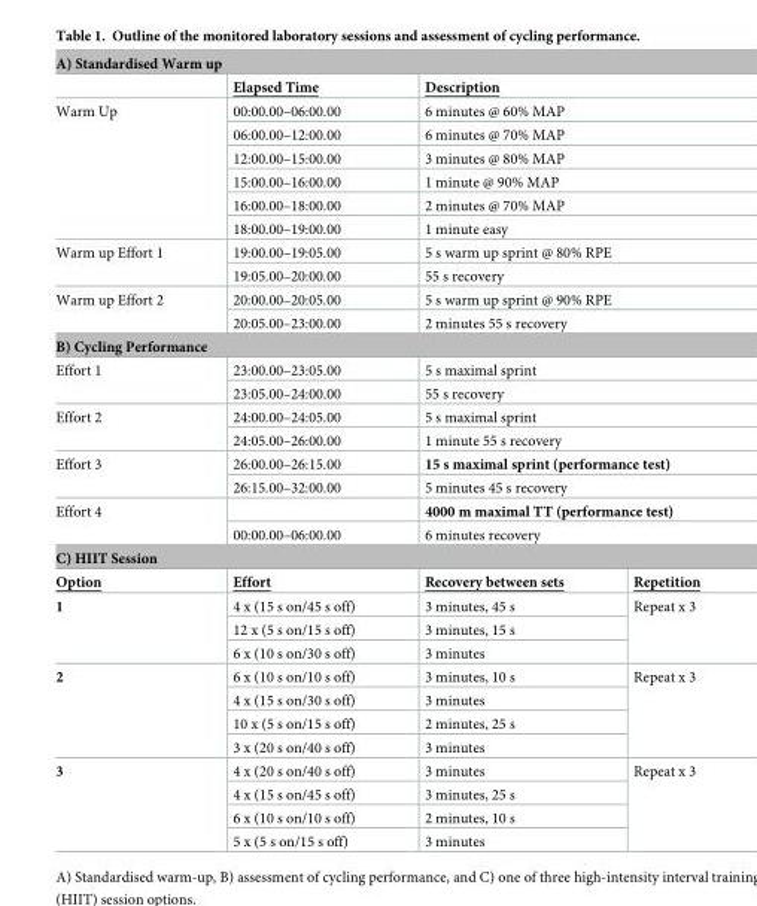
<table><tbody><tr><td colspan="4">A) Standardised Warm up</td></tr><tr><td></td><td>Elapsed Time</td><td colspan="2">Description</td></tr><tr><td rowspan="6">Warm Up</td><td>00:00.00–06:00.00</td><td colspan="2">6 minutes @ 60% MAP</td></tr><tr><td>06:00.00–12:00.00</td><td colspan="2">6 minutes @ 70% MAP</td></tr><tr><td>12:00.00–15:00.00</td><td colspan="2">3 minutes @ 80% MAP</td></tr><tr><td>15:00.00–16:00.00</td><td colspan="2">1 minute @ 90% MAP</td></tr><tr><td>16:00.00–18:00.00</td><td colspan="2">2 minutes @ 70% MAP</td></tr><tr><td>18:00.00–19:00.00</td><td colspan="2">1 minute easy</td></tr><tr><td rowspan="2">Warm up Effort 1</td><td>19:00.00–19:05.00</td><td colspan="2">5 s warm up sprint @ 80% RPE</td></tr><tr><td>19:05.00–20:00.00</td><td colspan="2">55 s recovery</td></tr><tr><td rowspan="2">Warm up Effort 2</td><td>20:00.00–20:05.00</td><td colspan="2">5 s warm up sprint @ 90% RPE</td></tr><tr><td>20:05.00–23:00.00</td><td colspan="2">2 minutes 55 s recovery</td></tr><tr><td colspan="4">B) Cycling Performance</td></tr><tr><td rowspan="2">Effort 1</td><td>23:00.00–23:05.00</td><td colspan="2">5 s maximal sprint</td></tr><tr><td>23:05.00–24:00.00</td><td colspan="2">55 s recovery</td></tr><tr><td rowspan="2">Effort 2</td><td>24:00.00–24:05.00</td><td colspan="2">5 s maximal sprint</td></tr><tr><td>24:05.00–26:00.00</td><td colspan="2">1 minute 55 s recovery</td></tr><tr><td rowspan="2">Effort 3</td><td>26:00.00–26:15.00</td><td colspan="2">15 s maximal sprint (performance test)</td></tr><tr><td>26:15.00–32:00.00</td><td colspan="2">5 minutes 45 s recovery</td></tr><tr><td rowspan="2">Effort 4</td><td></td><td colspan="2">4000 m maximal TT (performance test)</td></tr><tr><td>00:00.00–06:00.00</td><td colspan="2">6 minutes recovery</td></tr><tr><td colspan="4">C) HIIT Session</td></tr><tr><td>Option</td><td>Effort</td><td>Recovery between sets</td><td>Repetition</td></tr><tr><td rowspan="3">1</td><td>4 x (15 s on/45 s off)</td><td>3 minutes, 45 s</td><td rowspan="3">Repeat x 3</td></tr><tr><td>12 x (5 s on/15 s off)</td><td>3 minutes, 15 s</td></tr><tr><td>6 x (10 s on/30 s off)</td><td>3 minutes</td></tr><tr><td rowspan="4">2</td><td>6 x (10 s on/10 s off)</td><td>3 minutes, 10 s</td><td rowspan="4">Repeat x 3</td></tr><tr><td>4 x (15 s on/30 s off)</td><td>3 minutes</td></tr><tr><td>10 x (5 s on/15 s off)</td><td>2 minutes, 25 s</td></tr><tr><td>3 x (20 s on/40 s off)</td><td>3 minutes</td></tr><tr><td rowspan="4">3</td><td>4 x (20 s on/40 s off)</td><td>3 minutes</td><td rowspan="4">Repeat x 3</td></tr><tr><td>4 x (15 s on/45 s off)</td><td>3 minutes, 25 s</td></tr><tr><td>6 x (10 s on/10 s off)</td><td>2 minutes, 10 s</td></tr><tr><td>5 x (5 s on/15 s off)</td><td>3 minutes</td></tr></tbody></table>